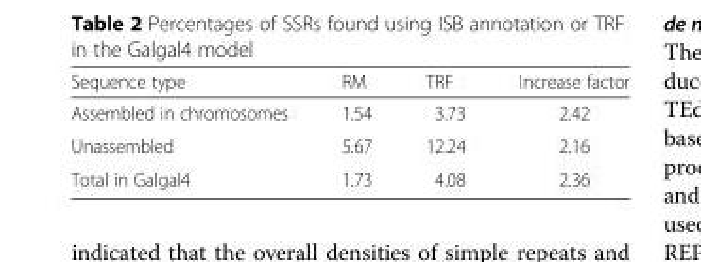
<table><thead><tr><td>Sequence type</td><td>RM</td><td>TRF</td><td>Increase factor</td></tr></thead><tbody><tr><td>Assembled in chromosomes</td><td>1.54</td><td>3.73</td><td>2.42</td></tr><tr><td>Unassembled</td><td>5.67</td><td>12.24</td><td>2.16</td></tr><tr><td>Total in Galgal4</td><td>1.73</td><td>4.08</td><td>2.36</td></tr></tbody></table>